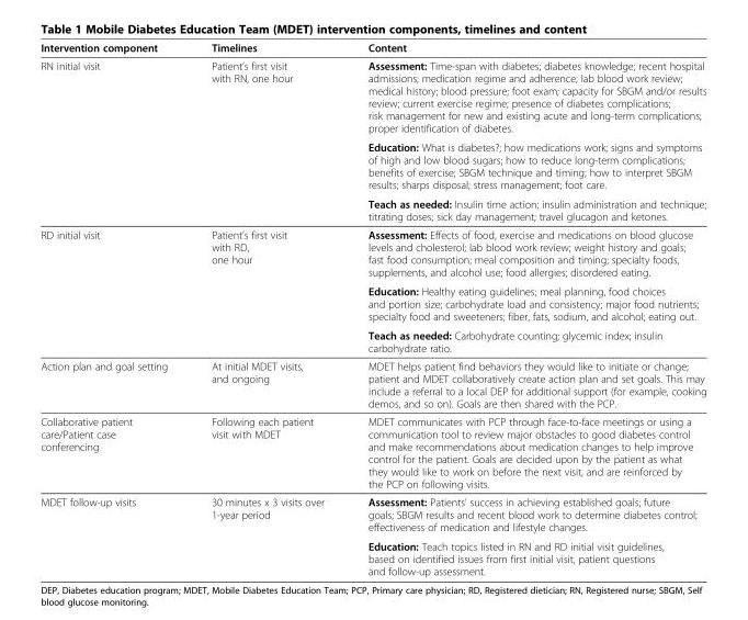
<table><thead><tr><td>Intervention component</td><td>Timelines</td><td>Content</td></tr></thead><tbody><tr><td rowspan="3">RN initial visit</td><td>Patient’s first visit with RN, one hour</td><td>Assessment: Time-span with diabetes; diabetes knowledge; recent hospital admissions; medication regime and adherence; lab blood work review; medical history; blood pressure; foot exam; capacity for SBGM and/or results review; current exercise regime; presence of diabetes complications; risk management for new and existing acute and long-term complications; proper identification of diabetes.</td></tr><tr><td></td><td>Education: What is diabetes?; how medications work; signs and symptoms of high and low blood sugars; how to reduce long-term complications; benefits of exercise; SBGM technique and timing; how to interpret SBGM results; sharps disposal; stress management; foot care.</td></tr><tr><td></td><td>Teach as needed: Insulin time action; insulin administration and technique; titrating doses; sick day management; travel glucagon and ketones.</td></tr><tr><td rowspan="3">RD initial visit</td><td>Patient’s first visit with RD, one hour</td><td>Assessment: Effects of food, exercise and medications on blood glucose levels and cholesterol; lab blood work review; weight history and goals; fast food consumption; meal composition and timing; specialty foods, supplements, and alcohol use; food allergies; disordered eating.</td></tr><tr><td></td><td>Education: Healthy eating guidelines; meal planning, food choices and portion size; carbohydrate load and consistency; major food nutrients; specialty food and sweeteners; fiber, fats, sodium, and alcohol; eating out.</td></tr><tr><td></td><td>Teach as needed: Carbohydrate counting; glycemic index; insulin carbohydrate ratio.</td></tr><tr><td>Action plan and goal setting</td><td>At initial MDET visits, and ongoing</td><td>MDET helps patient find behaviors they would like to initiate or change; patient and MDET collaboratively create action plan and set goals. This may include a referral to a local DEP for additional support (for example, cooking demos, and so on). Goals are then shared with the PCP.</td></tr><tr><td>Collaborative patient care/Patient case conferencing</td><td>Following each patient visit with MDET</td><td>MDET communicates with PCP through face-to-face meetings or using a communication tool to review major obstacles to good diabetes control and make recommendations about medication changes to help improve control for the patient. Goals are decided upon by the patient as what they would like to work on before the next visit, and are reinforced by the PCP on following visits.</td></tr><tr><td rowspan="2">MDET follow-up visits</td><td>30 minutes x 3 visits over 1-year period</td><td>Assessment: Patients’ success in achieving established goals; future goals; SBGM results and recent blood work to determine diabetes control; effectiveness of medication and lifestyle changes.</td></tr><tr><td></td><td>Education: Teach topics listed in RN and RD initial visit guidelines, based on identified issues from first initial visit, patient questions and follow-up assessment.</td></tr></tbody></table>